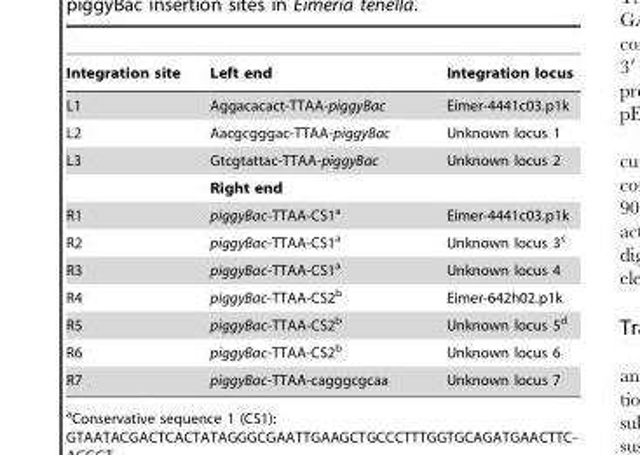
<table><thead><tr><td>Integration site</td><td>Left end</td><td>Integration locus</td></tr></thead><tbody><tr><td>L1</td><td>Aggacacact-TTAA-piggyBac</td><td>Eimer-4441c03.p1k</td></tr><tr><td>L2</td><td>Aacgcgggac-TTAA-piggyBac</td><td>Unknown locus 1</td></tr><tr><td rowspan="2">L3</td><td>Gtcgtattac-TTAA-piggyBac</td><td>Unknown locus 2</td></tr><tr><td>Right end</td><td></td></tr><tr><td>R1</td><td>piggyBac-TTAA-CS1<sup>a</sup></td><td>Eimer-4441c03.p1k</td></tr><tr><td>R2</td><td>piggyBac-TTAA-CS1<sup>a</sup></td><td>Unknown locus 3<sup>c</sup></td></tr><tr><td>R3</td><td>piggyBac-TTAA-CS1<sup>a</sup></td><td>Unknown locus 4</td></tr><tr><td>R4</td><td>piggyBac-TTAA-CS2<sup>b</sup></td><td>Eimer-642h02.p1k</td></tr><tr><td>R5</td><td>piggyBac-TTAA-CS2<sup>b</sup></td><td>Unknown locus 5<sup>d</sup></td></tr><tr><td>R6</td><td>piggyBac-TTAA-CS2<sup>b</sup></td><td>Unknown locus 6</td></tr><tr><td>R7</td><td>piggyBac-TTAA-cagggcgcaa</td><td>Unknown locus 7</td></tr></tbody></table>